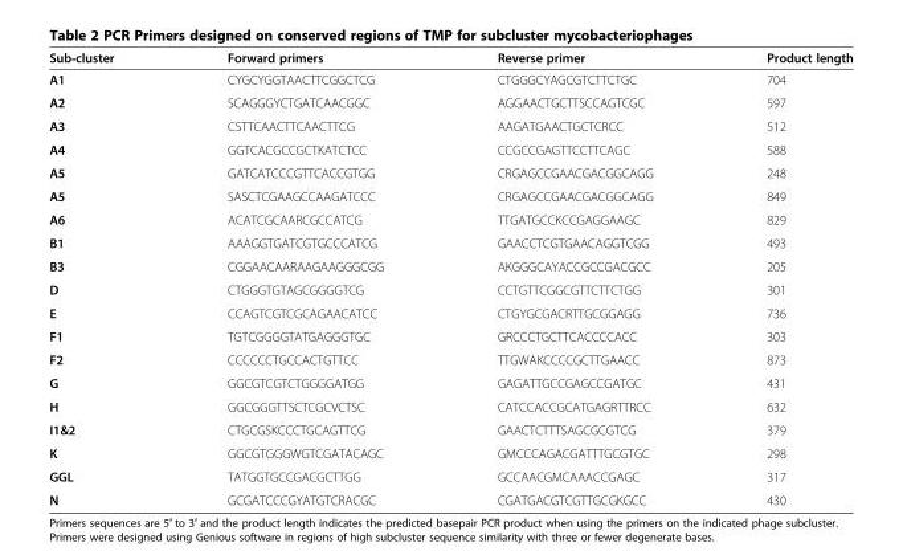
<table><thead><tr><td>Sub-cluster</td><td>Forward primers</td><td>Reverse primer</td><td>Product length</td></tr></thead><tbody><tr><td>A1</td><td>CYGCYGGTAACTTCGGCTCG</td><td>CTGGGCYAGCGTCTTCTGC</td><td>704</td></tr><tr><td>A2</td><td>SCAGGGYCTGATCAACGGC</td><td>AGGAACTGCTTSCCAGTCGC</td><td>597</td></tr><tr><td>A3</td><td>CSTTCAACTTCAACTTCG</td><td>AAGATGAACTGCTCRCC</td><td>512</td></tr><tr><td>A4</td><td>GGTCACGCCGCTKATCTCC</td><td>CCGCCGAGTTCCTTCAGC</td><td>588</td></tr><tr><td>A5</td><td>GATCATCCCGTTCACCGTGG</td><td>CRGAGCCGAACGACGGCAGG</td><td>248</td></tr><tr><td>A5</td><td>SASCTCGAAGCCAAGATCCC</td><td>CRGAGCCGAACGACGGCAGG</td><td>849</td></tr><tr><td>A6</td><td>ACATCGCAARCGCCATCG</td><td>TTGATGCCKCCGAGGAAGC</td><td>829</td></tr><tr><td>B1</td><td>AAAGGTGATCGTGCCCATCG</td><td>GAACCTCGTGAACAGGTCGG</td><td>493</td></tr><tr><td>B3</td><td>CGGAACAARAAGAAGGGCGG</td><td>AKGGGCAYACCGCCGACGCC</td><td>205</td></tr><tr><td>D</td><td>CTGGGTGTAGCGGGGTCG</td><td>CCTGTTCGGCGTTCTTCTGG</td><td>301</td></tr><tr><td>E</td><td>CCAGTCGTCGCAGAACATCC</td><td>CTGYGCGACRTTGCGGAGG</td><td>736</td></tr><tr><td>F1</td><td>TGTCGGGGTATGAGGGTGC</td><td>GRCCCTGCTTCACCCCACC</td><td>303</td></tr><tr><td>F2</td><td>CCCCCCTGCCACTGTTCC</td><td>TTGWAKCCCCGCTTGAACC</td><td>873</td></tr><tr><td>G</td><td>GGCGTCGTCTGGGGATGG</td><td>GAGATTGCCGAGCCGATGC</td><td>431</td></tr><tr><td>H</td><td>GGCGGGTTSCTCGCVCTSC</td><td>CATCCACCGCATGAGRTTRCC</td><td>632</td></tr><tr><td>I1&amp;2</td><td>CTGCGSKCCCTGCAGTTCG</td><td>GAACTCTTTSAGCGCGTCG</td><td>379</td></tr><tr><td>K</td><td>GGCGTGGGWGTCGATACAGC</td><td>GMCCCAGACGATTTGCGTGC</td><td>298</td></tr><tr><td>GGL</td><td>TATGGTGCCGACGCTTGG</td><td>GCCAACGMCAAACCGAGC</td><td>317</td></tr><tr><td>N</td><td>GCGATCCCGYATGTCRACGC</td><td>CGATGACGTCGTTGCGKGCC</td><td>430</td></tr></tbody></table>